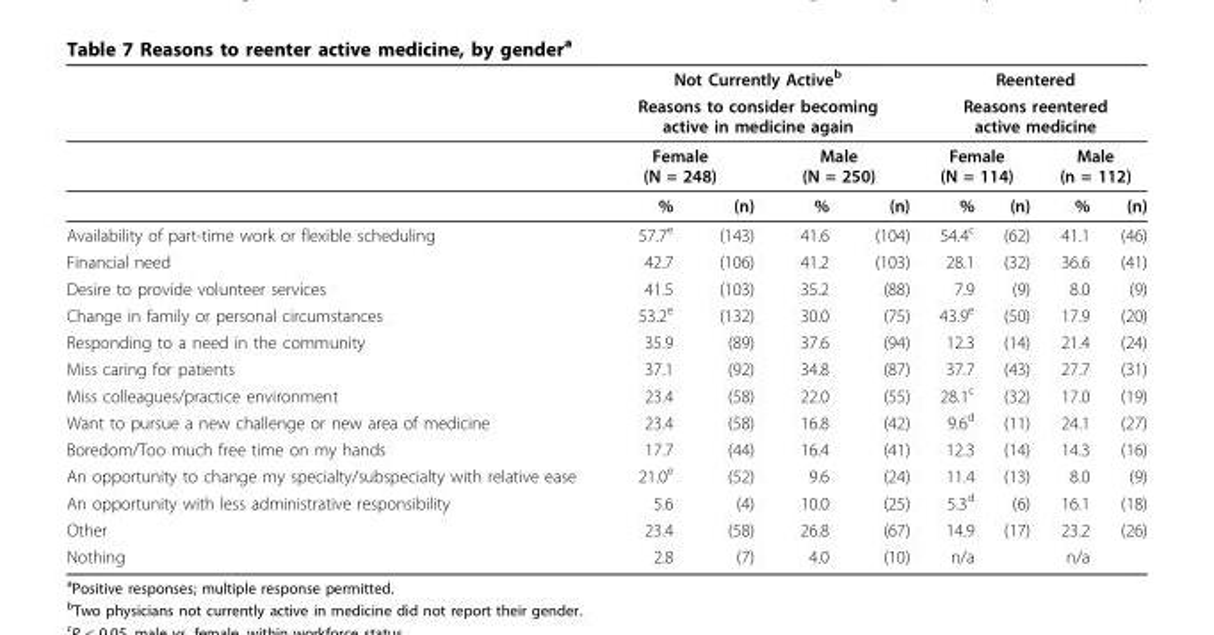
<table><thead><tr><td rowspan="4"></td><td rowspan="2" colspan="4">Not Currently Activeb Reasons to consider becoming active in medicine again</td><td rowspan="2" colspan="4">Reentered Reasons reentered active medicine</td></tr><tr></tr><tr><td colspan="2">Female (N = 248)</td><td colspan="2">Male (N = 250)</td><td colspan="2">Female (N = 114)</td><td colspan="2">Male (n = 112)</td></tr><tr><td>%</td><td>(n)</td><td>%</td><td>(n)</td><td>%</td><td>(n)</td><td>%</td><td>(n)</td></tr></thead><tbody><tr><td>Availability of part-time work or flexible scheduling</td><td>57.7<sup>e</sup></td><td>(143)</td><td>41.6</td><td>(104)</td><td>54.4<sup>c</sup></td><td>(62)</td><td>41.1</td><td>(46)</td></tr><tr><td>Financial need</td><td>42.7</td><td>(106)</td><td>41.2</td><td>(103)</td><td>28.1</td><td>(32)</td><td>36.6</td><td>(41)</td></tr><tr><td>Desire to provide volunteer services</td><td>41.5</td><td>(103)</td><td>35.2</td><td>(88)</td><td>7.9</td><td>(9)</td><td>8.0</td><td>(9)</td></tr><tr><td>Change in family or personal circumstances</td><td>53.2<sup>e</sup></td><td>(132)</td><td>30.0</td><td>(75)</td><td>43.9<sup>e</sup></td><td>(50)</td><td>17.9</td><td>(20)</td></tr><tr><td>Responding to a need in the community</td><td>35.9</td><td>(89)</td><td>37.6</td><td>(94)</td><td>12.3</td><td>(14)</td><td>21.4</td><td>(24)</td></tr><tr><td>Miss caring for patients</td><td>37.1</td><td>(92)</td><td>34.8</td><td>(87)</td><td>37.7</td><td>(43)</td><td>27.7</td><td>(31)</td></tr><tr><td>Miss colleagues/practice environment</td><td>23.4</td><td>(58)</td><td>22.0</td><td>(55)</td><td>28.1<sup>c</sup></td><td>(32)</td><td>17.0</td><td>(19)</td></tr><tr><td>Want to pursue a new challenge or new area of medicine</td><td>23.4</td><td>(58)</td><td>16.8</td><td>(42)</td><td>9.6<sup>d</sup></td><td>(11)</td><td>24.1</td><td>(27)</td></tr><tr><td>Boredom/Too much free time on my hands</td><td>17.7</td><td>(44)</td><td>16.4</td><td>(41)</td><td>12.3</td><td>(14)</td><td>14.3</td><td>(16)</td></tr><tr><td>An opportunity to change my specialty/subspecialty with relative ease</td><td>21.0<sup>e</sup></td><td>(52)</td><td>9.6</td><td>(24)</td><td>11.4</td><td>(13)</td><td>8.0</td><td>(9)</td></tr><tr><td>An opportunity with less administrative responsibility</td><td>5.6</td><td>(4)</td><td>10.0</td><td>(25)</td><td>5.3<sup>d</sup></td><td>(6)</td><td>16.1</td><td>(18)</td></tr><tr><td>Other</td><td>23.4</td><td>(58)</td><td>26.8</td><td>(67)</td><td>14.9</td><td>(17)</td><td>23.2</td><td>(26)</td></tr><tr><td>Nothing</td><td>2.8</td><td>(7)</td><td>4.0</td><td>(10)</td><td>n/a</td><td></td><td>n/a</td><td></td></tr></tbody></table>